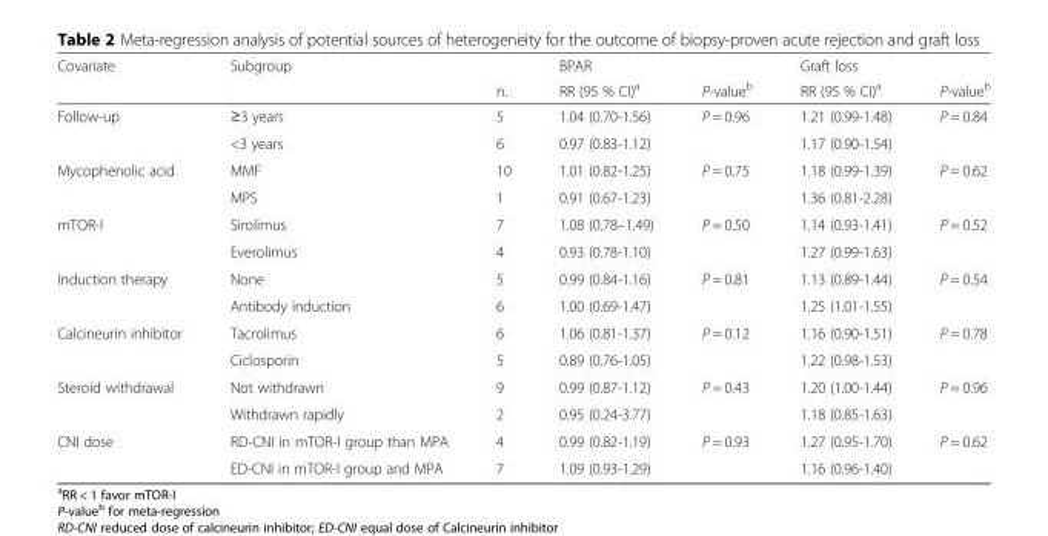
<table><thead><tr><td rowspan="2">Covariate</td><td rowspan="2">Subgroup</td><td rowspan="2">n.</td><td colspan="2">BPAR</td><td colspan="2">Graft loss</td></tr><tr><td>RR (95 % CI)<sup>a</sup></td><td>P-value<sup>b</sup></td><td>RR (95 % CI)<sup>a</sup></td><td>P-value<sup>b</sup></td></tr></thead><tbody><tr><td rowspan="2">Follow-up</td><td>≥3 years</td><td>5</td><td>1.04 (0.70-1.56)</td><td>P = 0.96</td><td>1.21 (0.99-1.48)</td><td>P = 0.84</td></tr><tr><td>&lt;3 years</td><td>6</td><td>0.97 (0.83-1.12)</td><td></td><td>1.17 (0.90-1.54)</td><td></td></tr><tr><td rowspan="2">Mycophenolic acid</td><td>MMF</td><td>10</td><td>1.01 (0.82-1.25)</td><td>P = 0.75</td><td>1.18 (0.99-1.39)</td><td>P = 0.62</td></tr><tr><td>MPS</td><td>1</td><td>0.91 (0.67-1.23)</td><td></td><td>1.36 (0.81-2.28)</td><td></td></tr><tr><td rowspan="2">mTOR-I</td><td>Sirolimus</td><td>7</td><td>1.08 (0.78–1.49)</td><td>P = 0.50</td><td>1.14 (0.93-1.41)</td><td>P = 0.52</td></tr><tr><td>Everolimus</td><td>4</td><td>0.93 (0.78-1.10)</td><td></td><td>1.27 (0.99-1.63)</td><td></td></tr><tr><td rowspan="2">Induction therapy</td><td>None</td><td>5</td><td>0.99 (0.84-1.16)</td><td>P = 0.81</td><td>1.13 (0.89-1.44)</td><td>P = 0.54</td></tr><tr><td>Antibody induction</td><td>6</td><td>1.00 (0.69-1.47)</td><td></td><td>1.25 (1.01-1.55)</td><td></td></tr><tr><td rowspan="2">Calcineurin inhibitor</td><td>Tacrolimus</td><td>6</td><td>1.06 (0.81-1.37)</td><td>P = 0.12</td><td>1.16 (0.90-1.51)</td><td>P = 0.78</td></tr><tr><td>Ciclosporin</td><td>5</td><td>0.89 (0.76-1.05)</td><td></td><td>1.22 (0.98-1.53)</td><td></td></tr><tr><td rowspan="2">Steroid withdrawal</td><td>Not withdrawn</td><td>9</td><td>0.99 (0.87-1.12)</td><td>P = 0.43</td><td>1.20 (1.00-1.44)</td><td>P = 0.96</td></tr><tr><td>Withdrawn rapidly</td><td>2</td><td>0.95 (0.24-3.77)</td><td></td><td>1.18 (0.85-1.63)</td><td></td></tr><tr><td rowspan="2">CNI dose</td><td>RD-CNI in mTOR-I group than MPA</td><td>4</td><td>0.99 (0.82-1.19)</td><td>P = 0.93</td><td>1.27 (0.95-1.70)</td><td>P = 0.62</td></tr><tr><td>ED-CNI in mTOR-I group and MPA</td><td>7</td><td>1.09 (0.93-1.29)</td><td></td><td>1.16 (0.96-1.40)</td><td></td></tr></tbody></table>